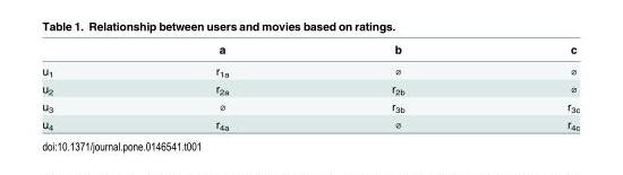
<table><thead><tr><td></td><td>a</td><td>b</td><td>c</td></tr></thead><tbody><tr><td>u<sub>1</sub></td><td>r<sub>1a</sub></td><td>⌀</td><td>⌀</td></tr><tr><td>u<sub>2</sub></td><td>r<sub>2a</sub></td><td>r<sub>2b</sub></td><td>⌀</td></tr><tr><td>u<sub>3</sub></td><td>⌀</td><td>r<sub>3b</sub></td><td>r<sub>3c</sub></td></tr><tr><td>u<sub>4</sub></td><td>r<sub>4a</sub></td><td>⌀</td><td>r<sub>4c</sub></td></tr></tbody></table>